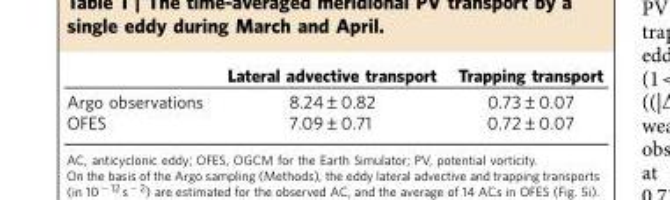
<table><thead><tr><td></td><td>Lateral advective transport</td><td>Trapping transport</td></tr></thead><tbody><tr><td>Argo observations</td><td>8.24±0.82</td><td>0.73±0.07</td></tr><tr><td>OFES</td><td>7.09±0.71</td><td>0.72±0.07</td></tr></tbody></table>